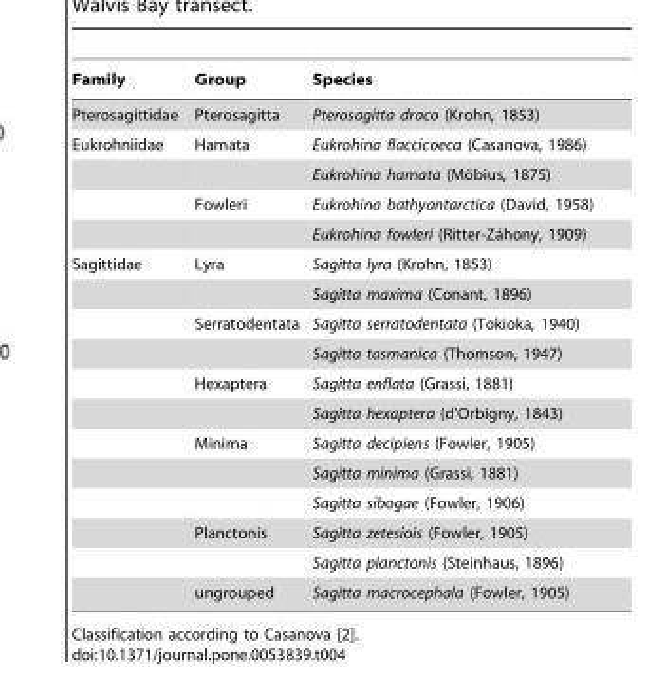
<table><thead><tr><td>Family</td><td>Group</td><td>Species</td></tr></thead><tbody><tr><td>Pterosagittidae</td><td>Pterosagitta</td><td>Pterosagitta draco (Krohn, 1853)</td></tr><tr><td rowspan="4">Eukrohniidae</td><td>Hamata</td><td>Eukrohina flaccicoeca (Casanova, 1986)</td></tr><tr><td></td><td>Eukrohina hamata (Mo¨bius, 1875)</td></tr><tr><td>Fowleri</td><td>Eukrohina bathyantarctica (David, 1958)</td></tr><tr><td></td><td>Eukrohina fowleri (Ritter-Za´hony, 1909)</td></tr><tr><td rowspan="12">Sagittidae</td><td>Lyra</td><td>Sagitta lyra (Krohn, 1853)</td></tr><tr><td></td><td>Sagitta maxima (Conant, 1896)</td></tr><tr><td>Serratodentata</td><td>Sagitta serratodentata (Tokioka, 1940)</td></tr><tr><td></td><td>Sagitta tasmanica (Thomson, 1947)</td></tr><tr><td>Hexaptera</td><td>Sagitta enflata (Grassi, 1881)</td></tr><tr><td></td><td>Sagitta hexaptera (d’Orbigny, 1843)</td></tr><tr><td>Minima</td><td>Sagitta decipiens (Fowler, 1905)</td></tr><tr><td></td><td>Sagitta minima (Grassi, 1881)</td></tr><tr><td></td><td>Sagitta sibogae (Fowler, 1906)</td></tr><tr><td>Planctonis</td><td>Sagitta zetesiois (Fowler, 1905)</td></tr><tr><td></td><td>Sagitta planctonis (Steinhaus, 1896)</td></tr><tr><td>ungrouped</td><td>Sagitta macrocephala (Fowler, 1905)</td></tr></tbody></table>